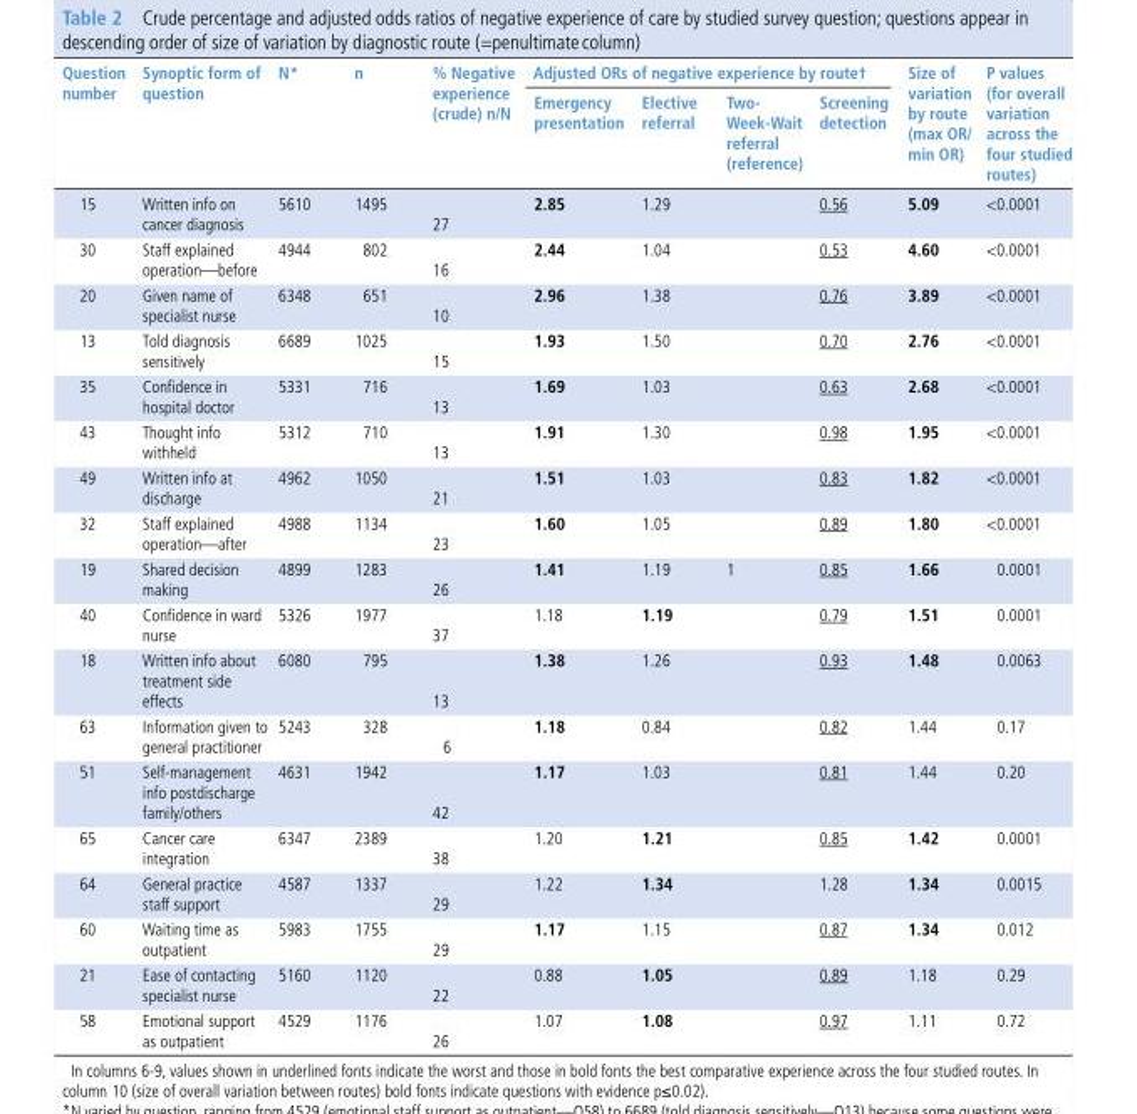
<table><thead><tr><td rowspan="2">Question number</td><td rowspan="2">synoptic form of question</td><td rowspan="2">N*</td><td rowspan="2">n</td><td rowspan="2">% Negative experience (crude) n/N</td><td colspan="4">adjusted ORs of negative experience by route†</td><td rowspan="2">size of variation by route (max OR/ min OR)</td><td rowspan="2">P values (for overall variation across the four studied routes)</td></tr><tr><td>emergency presentation</td><td>elective referral</td><td>Two- Week-Wait referral (reference)</td><td>screening detection</td></tr></thead><tbody><tr><td>15</td><td>Written info on cancer diagnosis</td><td>5610</td><td>1495</td><td>27</td><td>2.85</td><td>1.29</td><td></td><td>0.56</td><td>5.09</td><td>&lt;0.0001</td></tr><tr><td>30</td><td>Staff explained operation—before</td><td>4944</td><td>802</td><td>16</td><td>2.44</td><td>1.04</td><td></td><td>0.53</td><td>4.60</td><td>&lt;0.0001</td></tr><tr><td>20</td><td>Given name of specialist nurse</td><td>6348</td><td>651</td><td>10</td><td>2.96</td><td>1.38</td><td></td><td>0.76</td><td>3.89</td><td>&lt;0.0001</td></tr><tr><td>13</td><td>Told diagnosis sensitively</td><td>6689</td><td>1025</td><td>15</td><td>1.93</td><td>1.50</td><td></td><td>0.70</td><td>2.76</td><td>&lt;0.0001</td></tr><tr><td>35</td><td>Confidence in hospital doctor</td><td>5331</td><td>716</td><td>13</td><td>1.69</td><td>1.03</td><td></td><td>0.63</td><td>2.68</td><td>&lt;0.0001</td></tr><tr><td>43</td><td>Thought info withheld</td><td>5312</td><td>710</td><td>13</td><td>1.91</td><td>1.30</td><td></td><td>0.98</td><td>1.95</td><td>&lt;0.0001</td></tr><tr><td>49</td><td>Written info at discharge</td><td>4962</td><td>1050</td><td>21</td><td>1.51</td><td>1.03</td><td></td><td>0.83</td><td>1.82</td><td>&lt;0.0001</td></tr><tr><td>32</td><td>Staff explained operation—after</td><td>4988</td><td>1134</td><td>23</td><td>1.60</td><td>1.05</td><td></td><td>0.89</td><td>1.80</td><td>&lt;0.0001</td></tr><tr><td>19</td><td>Shared decision making</td><td>4899</td><td>1283</td><td>26</td><td>1.41</td><td>1.19</td><td>1</td><td>0.85</td><td>1.66</td><td>0.0001</td></tr><tr><td>40</td><td>Confidence in ward nurse</td><td>5326</td><td>1977</td><td>37</td><td>1.18</td><td>1.19</td><td></td><td>0.79</td><td>1.51</td><td>0.0001</td></tr><tr><td>18</td><td>Written info about treatment side effects</td><td>6080</td><td>795</td><td>13</td><td>1.38</td><td>1.26</td><td></td><td>0.93</td><td>1.48</td><td>0.0063</td></tr><tr><td>63</td><td>Information given to general practitioner</td><td>5243</td><td>328</td><td>6</td><td>1.18</td><td>0.84</td><td></td><td>0.82</td><td>1.44</td><td>0.17</td></tr><tr><td>51</td><td>Self-management info postdischarge family/others</td><td>4631</td><td>1942</td><td>42</td><td>1.17</td><td>1.03</td><td></td><td>0.81</td><td>1.44</td><td>0.20</td></tr><tr><td>65</td><td>Cancer care integration</td><td>6347</td><td>2389</td><td>38</td><td>1.20</td><td>1.21</td><td></td><td>0.85</td><td>1.42</td><td>0.0001</td></tr><tr><td>64</td><td>General practice staff support</td><td>4587</td><td>1337</td><td>29</td><td>1.22</td><td>1.34</td><td></td><td>1.28</td><td>1.34</td><td>0.0015</td></tr><tr><td>60</td><td>Waiting time as outpatient</td><td>5983</td><td>1755</td><td>29</td><td>1.17</td><td>1.15</td><td></td><td>0.87</td><td>1.34</td><td>0.012</td></tr><tr><td>21</td><td>Ease of contacting specialist nurse</td><td>5160</td><td>1120</td><td>22</td><td>0.88</td><td>1.05</td><td></td><td>0.89</td><td>1.18</td><td>0.29</td></tr><tr><td>58</td><td>Emotional support as outpatient</td><td>4529</td><td>1176</td><td>26</td><td>1.07</td><td>1.08</td><td></td><td>0.97</td><td>1.11</td><td>0.72</td></tr></tbody></table>